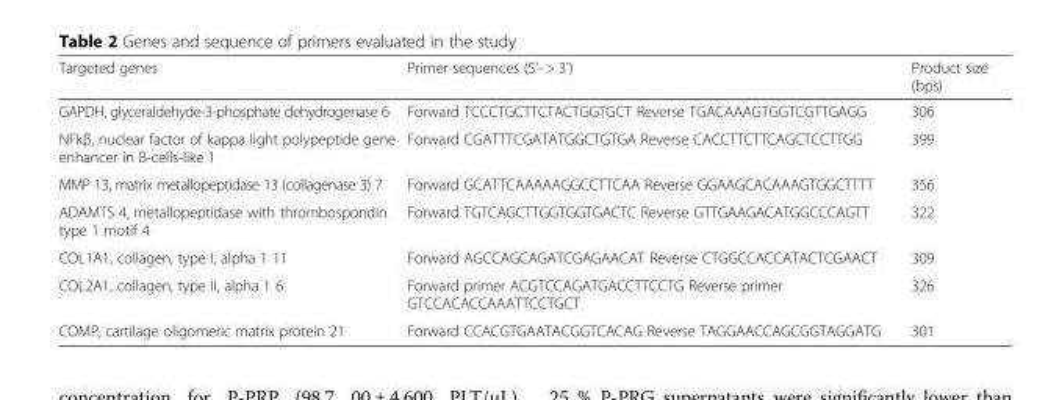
<table><thead><tr><td>Targeted genes</td><td>Primer sequences (5&#x27;- &gt; 3&#x27;)</td><td>Product size (bps)</td></tr></thead><tbody><tr><td>GAPDH, glyceraldehyde-3-phosphate dehydrogenase 6</td><td>Forward TCCCTGCTTCTACTGGTGCT Reverse TGACAAAGTGGTCGTTGAGG</td><td>306</td></tr><tr><td>NFkβ, nuclear factor of kappa light polypeptide gene enhancer in B-cells-like 1</td><td>Forward CGATTTCGATATGGCTGTGA Reverse CACCTTCTTCAGCTCCTTGG</td><td>399</td></tr><tr><td>MMP 13, matrix metallopeptidase 13 (collagenase 3) 7</td><td>Forward GCATTCAAAAAGGCCTTCAA Reverse GGAAGCACAAAGTGGCTTTT</td><td>356</td></tr><tr><td>ADAMTS 4, metallopeptidase with thrombospondin type 1 motif 4</td><td>Forward TGTCAGCTTGGTGGTGACTC Reverse GTTGAAGACATGGCCCAGTT</td><td>322</td></tr><tr><td>COL1A1, collagen, type I, alpha 1 11</td><td>Forward AGCCAGCAGATCGAGAACAT Reverse CTGGCCACCATACTCGAACT</td><td>309</td></tr><tr><td>COL2A1, collagen, type II, alpha 1 6</td><td>Forward primer ACGTCCAGATGACCTTCCTG Reverse primer GTCCACACCAAATTCCTGCT</td><td>326</td></tr><tr><td>COMP, cartilage oligomeric matrix protein 21</td><td>Forward CCACGTGAATACGGTCACAG Reverse TAGGAACCAGCGGTAGGATG</td><td>301</td></tr></tbody></table>